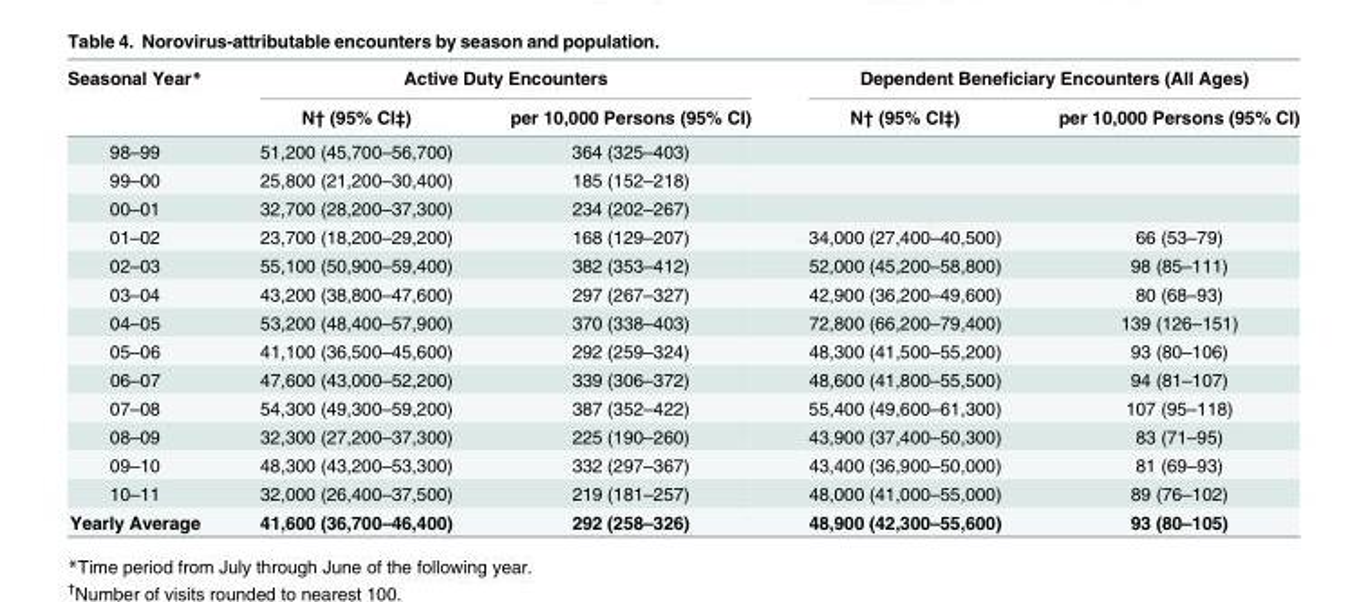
<table><thead><tr><td rowspan="2">Seasonal Year*</td><td colspan="2">Active Duty Encounters</td><td colspan="2">Dependent Beneficiary Encounters (All Ages)</td></tr><tr><td>N† (95% CI‡)</td><td>per 10,000 Persons (95% CI)</td><td>N† (95% CI‡)</td><td>per 10,000 Persons (95% CI)</td></tr></thead><tbody><tr><td>98–99</td><td>51,200 (45,700–56,700)</td><td>364 (325–403)</td><td></td><td></td></tr><tr><td>99–00</td><td>25,800 (21,200–30,400)</td><td>185 (152–218)</td><td></td><td></td></tr><tr><td>00–01</td><td>32,700 (28,200–37,300)</td><td>234 (202–267)</td><td></td><td></td></tr><tr><td>01–02</td><td>23,700 (18,200–29,200)</td><td>168 (129–207)</td><td>34,000 (27,400–40,500)</td><td>66 (53–79)</td></tr><tr><td>02–03</td><td>55,100 (50,900–59,400)</td><td>382 (353–412)</td><td>52,000 (45,200–58,800)</td><td>98 (85–111)</td></tr><tr><td>03–04</td><td>43,200 (38,800–47,600)</td><td>297 (267–327)</td><td>42,900 (36,200–49,600)</td><td>80 (68–93)</td></tr><tr><td>04–05</td><td>53,200 (48,400–57,900)</td><td>370 (338–403)</td><td>72,800 (66,200–79,400)</td><td>139 (126–151)</td></tr><tr><td>05–06</td><td>41,100 (36,500–45,600)</td><td>292 (259–324)</td><td>48,300 (41,500–55,200)</td><td>93 (80–106)</td></tr><tr><td>06–07</td><td>47,600 (43,000–52,200)</td><td>339 (306–372)</td><td>48,600 (41,800–55,500)</td><td>94 (81–107)</td></tr><tr><td>07–08</td><td>54,300 (49,300–59,200)</td><td>387 (352–422)</td><td>55,400 (49,600–61,300)</td><td>107 (95–118)</td></tr><tr><td>08–09</td><td>32,300 (27,200–37,300)</td><td>225 (190–260)</td><td>43,900 (37,400–50,300)</td><td>83 (71–95)</td></tr><tr><td>09–10</td><td>48,300 (43,200–53,300)</td><td>332 (297–367)</td><td>43,400 (36,900–50,000)</td><td>81 (69–93)</td></tr><tr><td>10–11</td><td>32,000 (26,400–37,500)</td><td>219 (181–257)</td><td>48,000 (41,000–55,000)</td><td>89 (76–102)</td></tr><tr><td>Yearly Average</td><td>41,600 (36,700–46,400)</td><td>292 (258–326)</td><td>48,900 (42,300–55,600)</td><td>93 (80–105)</td></tr></tbody></table>